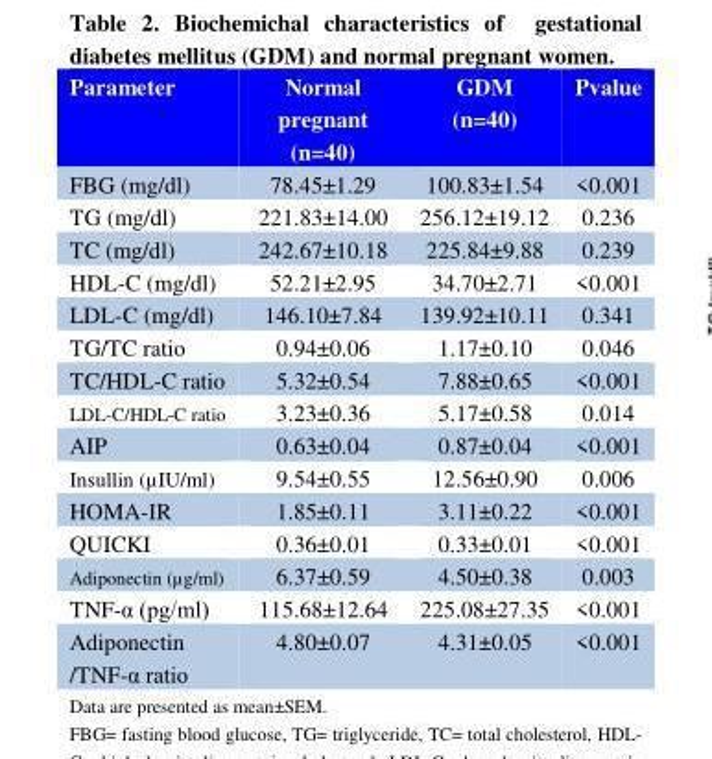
<table><thead><tr><td>Parameter</td><td>Normal pregnant (n=40)</td><td>GDM (n=40)</td><td>Pvalue</td></tr></thead><tbody><tr><td>FBG (mg/dl)</td><td>78.45±1.29</td><td>100.83±1.54</td><td>&lt;0.001</td></tr><tr><td>TG (mg/dl)</td><td>221.83±14.00</td><td>256.12±19.12</td><td>0.236</td></tr><tr><td>TC (mg/dl)</td><td>242.67±10.18</td><td>225.84±9.88</td><td>0.239</td></tr><tr><td>HDL-C (mg/dl)</td><td>52.21±2.95</td><td>34.70±2.71</td><td>&lt;0.001</td></tr><tr><td>LDL-C (mg/dl)</td><td>146.10±7.84</td><td>139.92±10.11</td><td>0.341</td></tr><tr><td>TG/TC ratio</td><td>0.94±0.06</td><td>1.17±0.10</td><td>0.046</td></tr><tr><td>TC/HDL-C ratio</td><td>5.32±0.54</td><td>7.88±0.65</td><td>&lt;0.001</td></tr><tr><td>LDL-C/HDL-C ratio</td><td>3.23±0.36</td><td>5.17±0.58</td><td>0.014</td></tr><tr><td>AIP</td><td>0.63±0.04</td><td>0.87±0.04</td><td>&lt;0.001</td></tr><tr><td>Insullin (µIU/ml)</td><td>9.54±0.55</td><td>12.56±0.90</td><td>0.006</td></tr><tr><td>HOMA-IR</td><td>1.85±0.11</td><td>3.11±0.22</td><td>&lt;0.001</td></tr><tr><td>QUICKI</td><td>0.36±0.01</td><td>0.33±0.01</td><td>&lt;0.001</td></tr><tr><td>Adiponectin (µg/ml)</td><td>6.37±0.59</td><td>4.50±0.38</td><td>0.003</td></tr><tr><td>TNF-α (pg/ml)</td><td>115.68±12.64</td><td>225.08±27.35</td><td>&lt;0.001</td></tr><tr><td>Adiponectin /TNF-α ratio</td><td>4.80±0.07</td><td>4.31±0.05</td><td>&lt;0.001</td></tr></tbody></table>